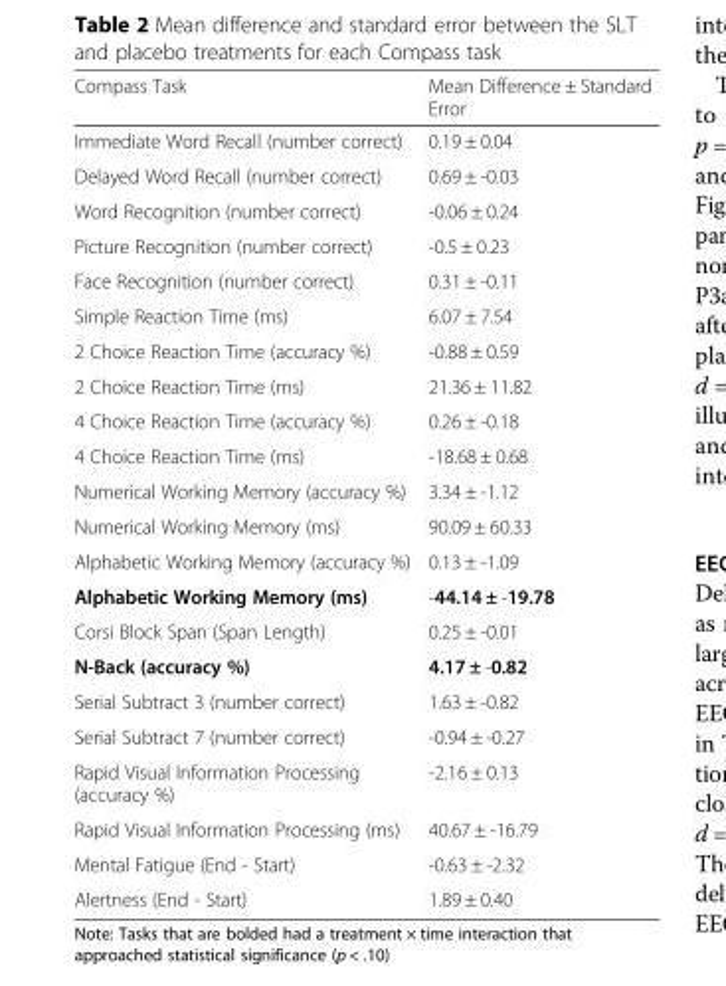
<table><thead><tr><td>Compass Task</td><td>Mean Difference ± Standard Error</td></tr></thead><tbody><tr><td>Immediate Word Recall (number correct)</td><td>0.19 ± 0.04</td></tr><tr><td>Delayed Word Recall (number correct)</td><td>0.69 ± -0.03</td></tr><tr><td>Word Recognition (number correct)</td><td>-0.06 ± 0.24</td></tr><tr><td>Picture Recognition (number correct)</td><td>-0.5 ± 0.23</td></tr><tr><td>Face Recognition (number correct)</td><td>0.31 ± -0.11</td></tr><tr><td>Simple Reaction Time (ms)</td><td>6.07 ± 7.54</td></tr><tr><td>2 Choice Reaction Time (accuracy %)</td><td>-0.88 ± 0.59</td></tr><tr><td>2 Choice Reaction Time (ms)</td><td>21.36 ± 11.82</td></tr><tr><td>4 Choice Reaction Time (accuracy %)</td><td>0.26 ± -0.18</td></tr><tr><td>4 Choice Reaction Time (ms)</td><td>-18.68 ± 0.68</td></tr><tr><td>Numerical Working Memory (accuracy %)</td><td>3.34 ± -1.12</td></tr><tr><td>Numerical Working Memory (ms)</td><td>90.09 ± 60.33</td></tr><tr><td>Alphabetic Working Memory (accuracy %)</td><td>0.13 ± -1.09</td></tr><tr><td>Alphabetic Working Memory (ms)</td><td>-44.14 ± -19.78</td></tr><tr><td>Corsi Block Span (Span Length)</td><td>0.25 ± -0.01</td></tr><tr><td>N-Back (accuracy %)</td><td>4.17 ± -0.82</td></tr><tr><td>Serial Subtract 3 (number correct)</td><td>1.63 ± -0.82</td></tr><tr><td>Serial Subtract 7 (number correct)</td><td>-0.94 ± -0.27</td></tr><tr><td>Rapid Visual Information Processing (accuracy %)</td><td>-2.16 ± 0.13</td></tr><tr><td>Rapid Visual Information Processing (ms)</td><td>40.67 ± -16.79</td></tr><tr><td>Mental Fatigue (End - Start)</td><td>-0.63 ± -2.32</td></tr><tr><td>Alertness (End - Start)</td><td>1.89 ± 0.40</td></tr></tbody></table>